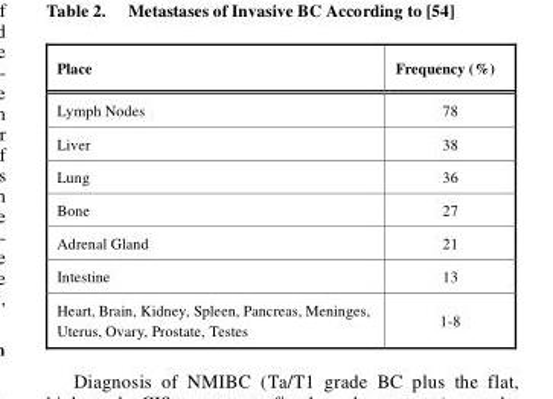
<table><thead><tr><td>Place</td><td>Frequency (%)</td></tr></thead><tbody><tr><td>Lymph Nodes</td><td>78</td></tr><tr><td>Liver</td><td>38</td></tr><tr><td>Lung</td><td>36</td></tr><tr><td>Bone</td><td>27</td></tr><tr><td>Adrenal Gland</td><td>21</td></tr><tr><td>Intestine</td><td>13</td></tr><tr><td>Heart, Brain, Kidney, Spleen, Pancreas, Meninges, Uterus, Ovary, Prostate, Testes</td><td>1-8</td></tr></tbody></table>